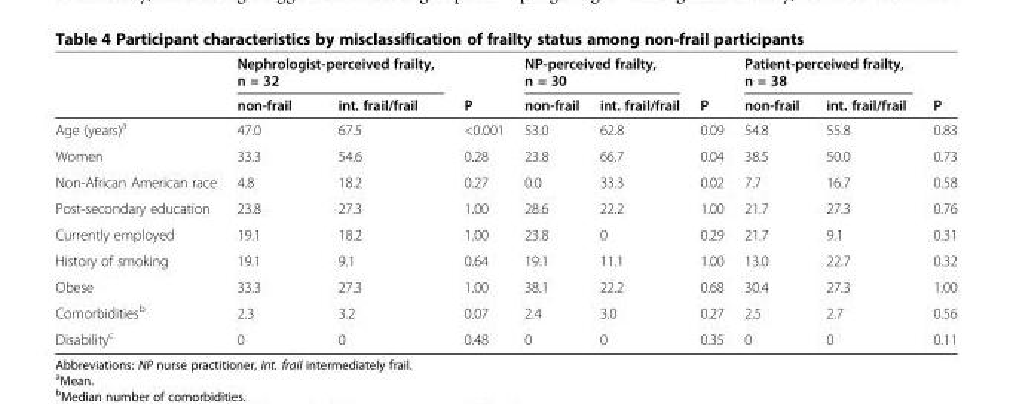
<table><thead><tr><td rowspan="2"></td><td colspan="2">Nephrologist-perceived frailty, n = 32</td><td rowspan="2">P</td><td colspan="2">NP-perceived frailty, n = 30</td><td rowspan="2">P</td><td colspan="2">Patient-perceived frailty, n = 38</td><td rowspan="2">P</td></tr><tr><td>non-frail</td><td>int. frail/frail</td><td>non-frail</td><td>int. frail/frail</td><td>non-frail</td><td>int. frail/frail</td></tr></thead><tbody><tr><td>Age (years)<sup>a</sup></td><td>47.0</td><td>67.5</td><td>&lt;0.001</td><td>53.0</td><td>62.8</td><td>0.09</td><td>54.8</td><td>55.8</td><td>0.83</td></tr><tr><td>Women</td><td>33.3</td><td>54.6</td><td>0.28</td><td>23.8</td><td>66.7</td><td>0.04</td><td>38.5</td><td>50.0</td><td>0.73</td></tr><tr><td>Non-African American race</td><td>4.8</td><td>18.2</td><td>0.27</td><td>0.0</td><td>33.3</td><td>0.02</td><td>7.7</td><td>16.7</td><td>0.58</td></tr><tr><td>Post-secondary education</td><td>23.8</td><td>27.3</td><td>1.00</td><td>28.6</td><td>22.2</td><td>1.00</td><td>21.7</td><td>27.3</td><td>0.76</td></tr><tr><td>Currently employed</td><td>19.1</td><td>18.2</td><td>1.00</td><td>23.8</td><td>0</td><td>0.29</td><td>21.7</td><td>9.1</td><td>0.31</td></tr><tr><td>History of smoking</td><td>19.1</td><td>9.1</td><td>0.64</td><td>19.1</td><td>11.1</td><td>1.00</td><td>13.0</td><td>22.7</td><td>0.32</td></tr><tr><td>Obese</td><td>33.3</td><td>27.3</td><td>1.00</td><td>38.1</td><td>22.2</td><td>0.68</td><td>30.4</td><td>27.3</td><td>1.00</td></tr><tr><td>Comorbidities<sup>b</sup></td><td>2.3</td><td>3.2</td><td>0.07</td><td>2.4</td><td>3.0</td><td>0.27</td><td>2.5</td><td>2.7</td><td>0.56</td></tr><tr><td>Disability<sup>c</sup></td><td>0</td><td>0</td><td>0.48</td><td>0</td><td>0</td><td>0.35</td><td>0</td><td>0</td><td>0.11</td></tr></tbody></table>